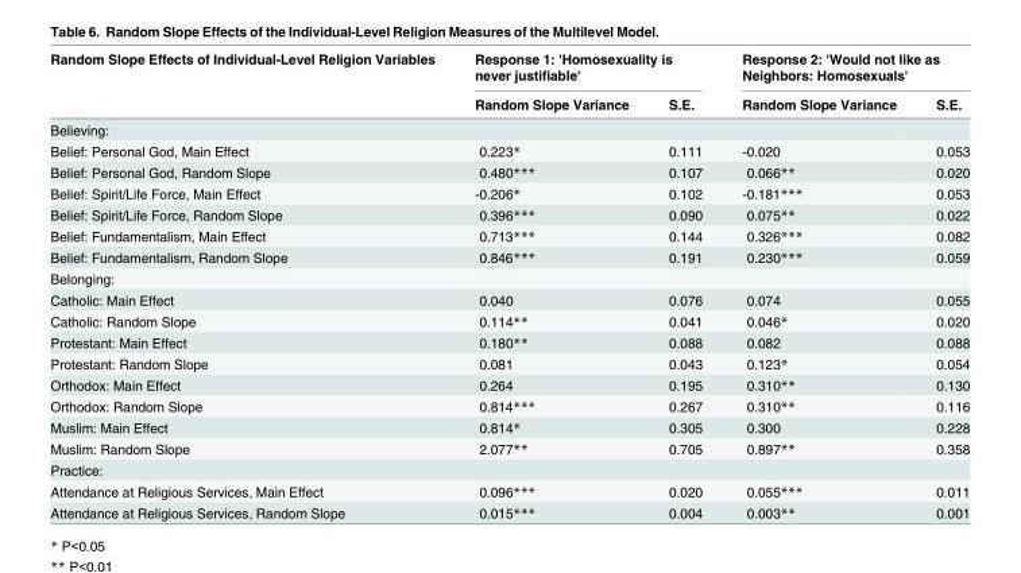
<table><thead><tr><td rowspan="2">Random Slope Effects of Individual-Level Religion Variables</td><td colspan="2">Response 1: &#x27;Homosexuality is never justifiable&#x27;</td><td colspan="2">Response 2: &#x27;Would not like as Neighbors: Homosexuals&#x27;</td></tr><tr><td>Random Slope Variance</td><td>S.E.</td><td>Random Slope Variance</td><td>S.E.</td></tr></thead><tbody><tr><td colspan="5">Believing:</td></tr><tr><td>Belief: Personal God, Main Effect</td><td>0.223*</td><td>0.111</td><td>-0.020</td><td>0.053</td></tr><tr><td>Belief: Personal God, Random Slope</td><td>0.480***</td><td>0.107</td><td>0.066**</td><td>0.020</td></tr><tr><td>Belief: Spirit/Life Force, Main Effect</td><td>-0.206*</td><td>0.102</td><td>-0.181***</td><td>0.053</td></tr><tr><td>Belief: Spirit/Life Force, Random Slope</td><td>0.396***</td><td>0.090</td><td>0.075**</td><td>0.022</td></tr><tr><td>Belief: Fundamentalism, Main Effect</td><td>0.713***</td><td>0.144</td><td>0.326***</td><td>0.082</td></tr><tr><td>Belief: Fundamentalism, Random Slope</td><td>0.846***</td><td>0.191</td><td>0.230***</td><td>0.059</td></tr><tr><td colspan="5">Belonging:</td></tr><tr><td>Catholic: Main Effect</td><td>0.040</td><td>0.076</td><td>0.074</td><td>0.055</td></tr><tr><td>Catholic: Random Slope</td><td>0.114**</td><td>0.041</td><td>0.046*</td><td>0.020</td></tr><tr><td>Protestant: Main Effect</td><td>0.180**</td><td>0.088</td><td>0.082</td><td>0.088</td></tr><tr><td>Protestant: Random Slope</td><td>0.081</td><td>0.043</td><td>0.123*</td><td>0.054</td></tr><tr><td>Orthodox: Main Effect</td><td>0.264</td><td>0.195</td><td>0.310**</td><td>0.130</td></tr><tr><td>Orthodox: Random Slope</td><td>0.814***</td><td>0.267</td><td>0.310**</td><td>0.116</td></tr><tr><td>Muslim: Main Effect</td><td>0.814*</td><td>0.305</td><td>0.300</td><td>0.228</td></tr><tr><td>Muslim: Random Slope</td><td>2.077**</td><td>0.705</td><td>0.897**</td><td>0.358</td></tr><tr><td colspan="5">Practice:</td></tr><tr><td>Attendance at Religious Services, Main Effect</td><td>0.096***</td><td>0.020</td><td>0.055***</td><td>0.011</td></tr><tr><td>Attendance at Religious Services, Random Slope</td><td>0.015***</td><td>0.004</td><td>0.003**</td><td>0.001</td></tr></tbody></table>